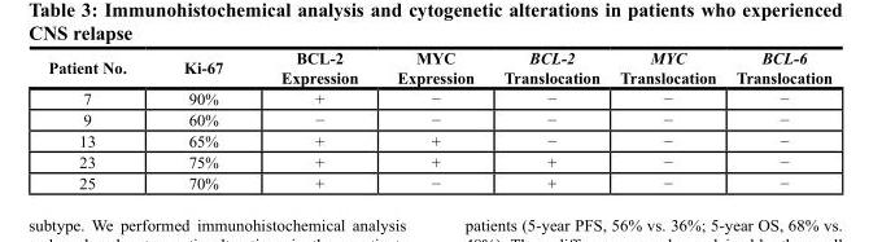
<table><thead><tr><td>Patient No.</td><td>Ki-67</td><td>BCL-2 Expression</td><td>MYC Expression</td><td>BCL-2 Translocation</td><td>MYC Translocation</td><td>BCL-6 Translocation</td></tr></thead><tbody><tr><td>7</td><td>90%</td><td>+</td><td>−</td><td>−</td><td>−</td><td>−</td></tr><tr><td>9</td><td>60%</td><td>−</td><td>−</td><td>−</td><td>−</td><td>−</td></tr><tr><td>13</td><td>65%</td><td>+</td><td>+</td><td>−</td><td>−</td><td>−</td></tr><tr><td>23</td><td>75%</td><td>+</td><td>+</td><td>+</td><td>−</td><td>−</td></tr><tr><td>25</td><td>70%</td><td>+</td><td>−</td><td>+</td><td>−</td><td>−</td></tr></tbody></table>